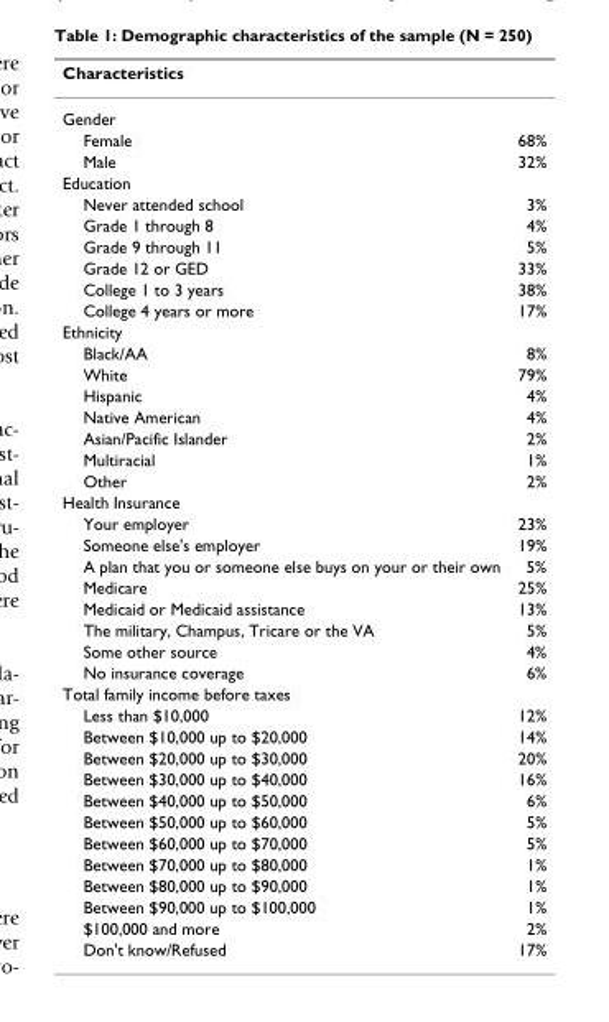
<table><thead><tr><td>Characteristics</td><td></td></tr></thead><tbody><tr><td colspan="2">Gender</td></tr><tr><td>Female</td><td>68%</td></tr><tr><td>Male</td><td>32%</td></tr><tr><td colspan="2">Education</td></tr><tr><td>Never attended school</td><td>3%</td></tr><tr><td>Grade 1 through 8</td><td>4%</td></tr><tr><td>Grade 9 through 11</td><td>5%</td></tr><tr><td>Grade 12 or GED</td><td>33%</td></tr><tr><td>College 1 to 3 years</td><td>38%</td></tr><tr><td>College 4 years or more</td><td>17%</td></tr><tr><td colspan="2">Ethnicity</td></tr><tr><td>Black/AA</td><td>8%</td></tr><tr><td>White</td><td>79%</td></tr><tr><td>Hispanic</td><td>4%</td></tr><tr><td>Native American</td><td>4%</td></tr><tr><td>Asian/Pacific Islander</td><td>2%</td></tr><tr><td>Multiracial</td><td>1%</td></tr><tr><td>Other</td><td>2%</td></tr><tr><td colspan="2">Health Insurance</td></tr><tr><td>Your employer</td><td>23%</td></tr><tr><td>Someone else&#x27;s employer</td><td>19%</td></tr><tr><td>A plan that you or someone else buys on your or their own</td><td>5%</td></tr><tr><td>Medicare</td><td>25%</td></tr><tr><td>Medicaid or Medicaid assistance</td><td>13%</td></tr><tr><td>The military, Champus, Tricare or the VA</td><td>5%</td></tr><tr><td>Some other source</td><td>4%</td></tr><tr><td>No insurance coverage</td><td>6%</td></tr><tr><td colspan="2">Total family income before taxes</td></tr><tr><td>Less than $10,000</td><td>12%</td></tr><tr><td>Between $10,000 up to $20,000</td><td>14%</td></tr><tr><td>Between $20,000 up to $30,000</td><td>20%</td></tr><tr><td>Between $30,000 up to $40,000</td><td>16%</td></tr><tr><td>Between $40,000 up to $50,000</td><td>6%</td></tr><tr><td>Between $50,000 up to $60,000</td><td>5%</td></tr><tr><td>Between $60,000 up to $70,000</td><td>5%</td></tr><tr><td>Between $70,000 up to $80,000</td><td>1%</td></tr><tr><td>Between $80,000 up to $90,000</td><td>1%</td></tr><tr><td>Between $90,000 up to $100,000</td><td>1%</td></tr><tr><td>$100,000 and more</td><td>2%</td></tr><tr><td>Don&#x27;t know/Refused</td><td>17%</td></tr></tbody></table>